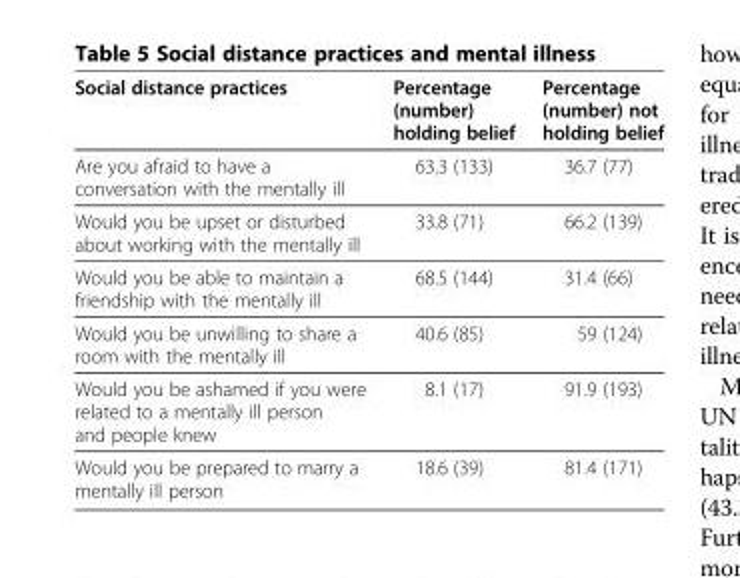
<table><thead><tr><td>Social distance practices</td><td>Percentage (number) holding belief</td><td>Percentage (number) not holding belief</td></tr></thead><tbody><tr><td>Are you afraid to have a conversation with the mentally ill</td><td>63.3 (133)</td><td>36.7 (77)</td></tr><tr><td>Would you be upset or disturbed about working with the mentally ill</td><td>33.8 (71)</td><td>66.2 (139)</td></tr><tr><td>Would you be able to maintain a friendship with the mentally ill</td><td>68.5 (144)</td><td>31.4 (66)</td></tr><tr><td>Would you be unwilling to share a room with the mentally ill</td><td>40.6 (85)</td><td>59 (124)</td></tr><tr><td>Would you be ashamed if you were related to a mentally ill person and people knew</td><td>8.1 (17)</td><td>91.9 (193)</td></tr><tr><td>Would you be prepared to marry a mentally ill person</td><td>18.6 (39)</td><td>81.4 (171)</td></tr></tbody></table>